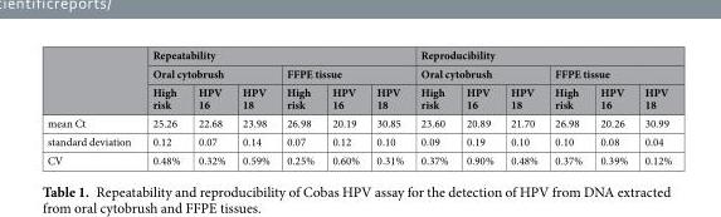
<table><thead><tr><td rowspan="3"></td><td colspan="6">Repeatability</td><td colspan="6">Reproducibility</td></tr><tr><td colspan="3">Oral cytobrush</td><td colspan="3">FFPE tissue</td><td colspan="3">Oral cytobrush</td><td colspan="3">FFPE tissue</td></tr><tr><td>High risk</td><td>HPV 16</td><td>HPV 18</td><td>High risk</td><td>HPV 16</td><td>HPV 18</td><td>High risk</td><td>HPV 16</td><td>HPV 18</td><td>High risk</td><td>HPV 16</td><td>HPV 18</td></tr></thead><tbody><tr><td>mean Ct</td><td>25.26</td><td>22.68</td><td>23.98</td><td>26.98</td><td>20.19</td><td>30.85</td><td>23.60</td><td>20.89</td><td>21.70</td><td>26.98</td><td>20.26</td><td>30.99</td></tr><tr><td>standard deviation</td><td>0.12</td><td>0.07</td><td>0.14</td><td>0.07</td><td>0.12</td><td>0.10</td><td>0.09</td><td>0.19</td><td>0.10</td><td>0.10</td><td>0.08</td><td>0.04</td></tr><tr><td>CV</td><td>0.48%</td><td>0.32%</td><td>0.59%</td><td>0.25%</td><td>0.60%</td><td>0.31%</td><td>0.37%</td><td>0.90%</td><td>0.48%</td><td>0.37%</td><td>0.39%</td><td>0.12%</td></tr></tbody></table>